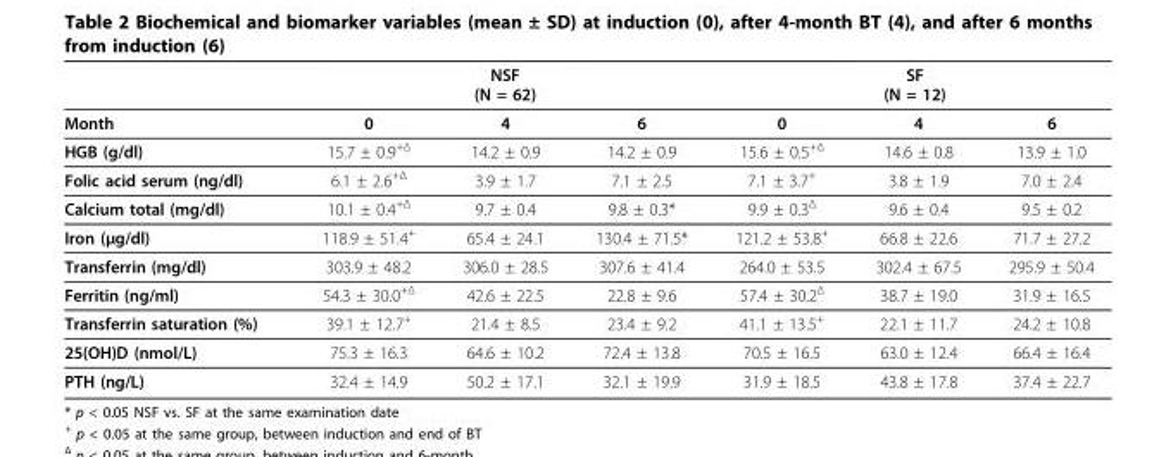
<table><thead><tr><td rowspan="2">Month</td><td colspan="3">NSF (N = 62)</td><td colspan="3">SF (N = 12)</td></tr><tr><td>0</td><td>4</td><td>6</td><td>0</td><td>4</td><td>6</td></tr></thead><tbody><tr><td>HGB (g/dl)</td><td>15.7 ± 0.9<sup>+Δ</sup></td><td>14.2 ± 0.9</td><td>14.2 ± 0.9</td><td>15.6 ± 0.5<sup>+Δ</sup></td><td>14.6 ± 0.8</td><td>13.9 ± 1.0</td></tr><tr><td>Folic acid serum (ng/dl)</td><td>6.1 ± 2.6<sup>+Δ</sup></td><td>3.9 ± 1.7</td><td>7.1 ± 2.5</td><td>7.1 ± 3.7<sup>+</sup></td><td>3.8 ± 1.9</td><td>7.0 ± 2.4</td></tr><tr><td>Calcium total (mg/dl)</td><td>10.1 ± 0.4<sup>+Δ</sup></td><td>9.7 ± 0.4</td><td>9.8 ± 0.3*</td><td>9.9 ± 0.3<sup>Δ</sup></td><td>9.6 ± 0.4</td><td>9.5 ± 0.2</td></tr><tr><td>Iron (μg/dl)</td><td>118.9 ± 51.4<sup>+</sup></td><td>65.4 ± 24.1</td><td>130.4 ± 71.5*</td><td>121.2 ± 53.8<sup>+</sup></td><td>66.8 ± 22.6</td><td>71.7 ± 27.2</td></tr><tr><td>Transferrin (mg/dl)</td><td>303.9 ± 48.2</td><td>306.0 ± 28.5</td><td>307.6 ± 41.4</td><td>264.0 ± 53.5</td><td>302.4 ± 67.5</td><td>295.9 ± 50.4</td></tr><tr><td>Ferritin (ng/ml)</td><td>54.3 ± 30.0<sup>+Δ</sup></td><td>42.6 ± 22.5</td><td>22.8 ± 9.6</td><td>57.4 ± 30.2<sup>Δ</sup></td><td>38.7 ± 19.0</td><td>31.9 ± 16.5</td></tr><tr><td>Transferrin saturation (%)</td><td>39.1 ± 12.7<sup>+</sup></td><td>21.4 ± 8.5</td><td>23.4 ± 9.2</td><td>41.1 ± 13.5<sup>+</sup></td><td>22.1 ± 11.7</td><td>24.2 ± 10.8</td></tr><tr><td>25(OH)D (nmol/L)</td><td>75.3 ± 16.3</td><td>64.6 ± 10.2</td><td>72.4 ± 13.8</td><td>70.5 ± 16.5</td><td>63.0 ± 12.4</td><td>66.4 ± 16.4</td></tr><tr><td>PTH (ng/L)</td><td>32.4 ± 14.9</td><td>50.2 ± 17.1</td><td>32.1 ± 19.9</td><td>31.9 ± 18.5</td><td>43.8 ± 17.8</td><td>37.4 ± 22.7</td></tr></tbody></table>